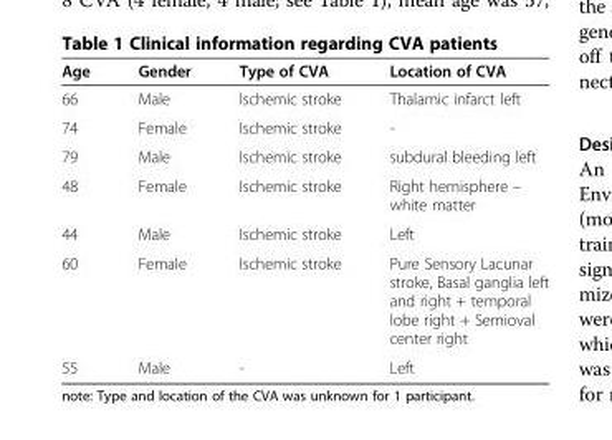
<table><thead><tr><td>Age</td><td>Gender</td><td>Type of CVA</td><td>Location of CVA</td></tr></thead><tbody><tr><td>66</td><td>Male</td><td>Ischemic stroke</td><td>Thalamic infarct left</td></tr><tr><td>74</td><td>Female</td><td>Ischemic stroke</td><td>-</td></tr><tr><td>79</td><td>Male</td><td>Ischemic stroke</td><td>subdural bleeding left</td></tr><tr><td>48</td><td>Female</td><td>Ischemic stroke</td><td>Right hemisphere – white matter</td></tr><tr><td>44</td><td>Male</td><td>Ischemic stroke</td><td>Left</td></tr><tr><td>60</td><td>Female</td><td>Ischemic stroke</td><td>Pure Sensory Lacunar stroke, Basal ganglia left and right + temporal lobe right + Semioval center right</td></tr><tr><td>55</td><td>Male</td><td>-</td><td>Left</td></tr></tbody></table>